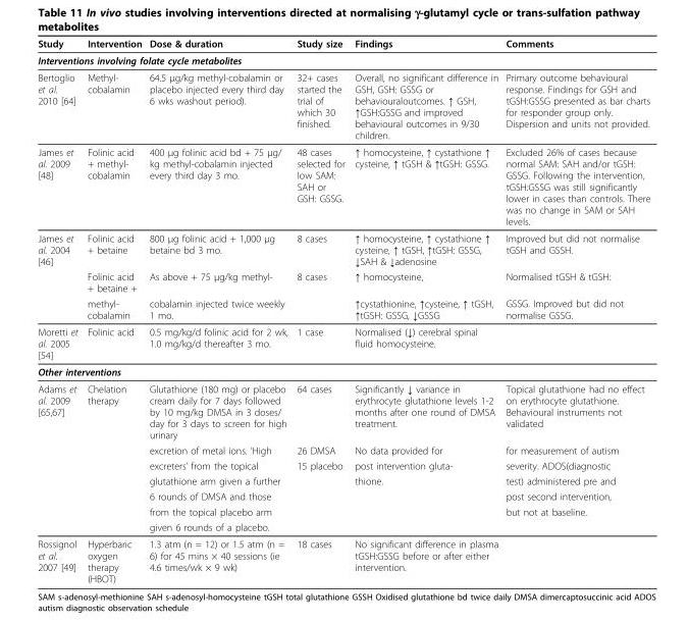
<table><thead><tr><td>Study</td><td>Intervention</td><td>Dose &amp; duration</td><td>Study size</td><td>Findings</td><td>Comments</td></tr></thead><tbody><tr><td colspan="6">Interventions involving folate cycle metabolites</td></tr><tr><td>Bertoglio et al. 2010 [64]</td><td>Methyl- cobalamin</td><td>64.5 μg/kg methyl-cobalamin or placebo injected every third day 6 wks washout period).</td><td>32+ cases started the trial of which 30 finished.</td><td>Overall, no significant difference in GSH, GSH: GSSG or behaviouraloutcomes. ↑ GSH, ↑GSH:GSSG and improved behavioural outcomes in 9/30 children.</td><td>Primary outcome behavioural response. Findings for GSH and tGSH:GSSG presented as bar charts for responder group only. Dispersion and units not provided.</td></tr><tr><td>James et al. 2009 [48]</td><td>Folinic acid + methyl- cobalamin</td><td>400 μg folinic acid bd + 75 μg/ kg methyl-cobalamin injected every third day 3 mo.</td><td>48 cases selected for low SAM: SAH or GSH: GSSG.</td><td>↑ homocysteine, ↑ cystathione ↑ cysteine, ↑ tGSH &amp; ↑tGSH: GSSG.</td><td>Excluded 26% of cases because normal SAM: SAH and/or tGSH: GSSG. Following the intervention, tGSH:GSSG was still significantly lower in cases than controls. There was no change in SAM or SAH levels.</td></tr><tr><td rowspan="3">James et al. 2004 [46]</td><td>Folinic acid + betaine</td><td>800 μg folinic acid + 1,000 μg betaine bd 3 mo.</td><td>8 cases</td><td>↑ homocysteine, ↑ cystathione ↑ cysteine, ↑ tGSH, ↑tGSH: GSSG, ↓SAH &amp; ↓adenosine</td><td>Improved but did not normalise tGSH and GSSH.</td></tr><tr><td>Folinic acid + betaine +</td><td>As above + 75 μg/kg methyl-</td><td>8 cases</td><td>↑ homocysteine,</td><td>Normalised tGSH &amp; tGSH:</td></tr><tr><td>methyl- cobalamin</td><td>cobalamin injected twice weekly 1 mo.</td><td></td><td>↑cystathionine, ↑cysteine, ↑ tGSH, ↑tGSH: GSSG, ↓GSSG</td><td>GSSG. Improved but did not normalise GSSG.</td></tr><tr><td>Moretti et al. 2005 [54]</td><td>Folinic acid</td><td>0.5 mg/kg/d folinic acid for 2 wk, 1.0 mg/kg/d thereafter 3 mo.</td><td>1 case</td><td>Normalised (↓) cerebral spinal fluid homocysteine.</td><td></td></tr><tr><td colspan="6">Other interventions</td></tr><tr><td rowspan="7">Adams et al. 2009 [65,67]</td><td>Chelation therapy</td><td>Glutathione (180 mg) or placebo cream daily for 7 days followed by 10 mg/kg DMSA in 3 doses/ day for 3 days to screen for high urinary</td><td>64 cases</td><td>Significantly ↓ variance in erythrocyte glutathione levels 1-2 months after one round of DMSA treatment.</td><td>Topical glutathione had no effect on erythrocyte glutathione. Behavioural instruments not validated</td></tr><tr><td></td><td>excretion of metal ions. ‘High</td><td>26 DMSA</td><td>No data provided for</td><td>for measurement of autism</td></tr><tr><td></td><td>excreters’ from the topical</td><td>15 placebo</td><td>post intervention gluta-</td><td>severity. ADOS(diagnostic</td></tr><tr><td></td><td>glutathione arm given a further</td><td></td><td>thione.</td><td>test) administered pre and</td></tr><tr><td></td><td>6 rounds of DMSA and those</td><td></td><td></td><td>post second intervention,</td></tr><tr><td></td><td>from the topical placebo arm</td><td></td><td></td><td>but not at baseline.</td></tr><tr><td></td><td>given 6 rounds of a placebo.</td><td></td><td></td><td></td></tr><tr><td>Rossignol et al. 2007 [49]</td><td>Hyperbaric oxygen therapy (HBOT)</td><td>1.3 atm (n = 12) or 1.5 atm (n = 6) for 45 mins × 40 sessions (ie 4.6 times/wk × 9 wk)</td><td>18 cases</td><td>No significant difference in plasma tGSH:GSSG before or after either intervention.</td><td></td></tr></tbody></table>